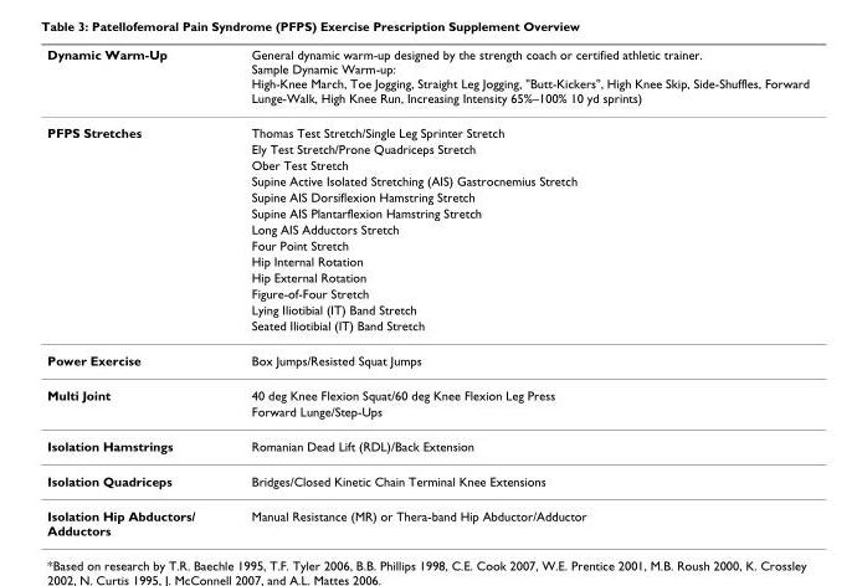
<table><thead><tr><td>Dynamic Warm-Up</td><td>General dynamic warm-up designed by the strength coach or certified athletic trainer. Sample Dynamic Warm-up: High-Knee March, Toe Jogging, Straight Leg Jogging, &quot;Butt-Kickers&quot;, High Knee Skip, Side-Shuffles, Forward Lunge-Walk, High Knee Run, Increasing Intensity 65%–100% 10 yd sprints)</td></tr></thead><tbody><tr><td rowspan="13">PFPS Stretches</td><td>Thomas Test Stretch/Single Leg Sprinter Stretch</td></tr><tr><td>Ely Test Stretch/Prone Quadriceps Stretch</td></tr><tr><td>Ober Test Stretch</td></tr><tr><td>Supine Active Isolated Stretching (AIS) Gastrocnemius Stretch</td></tr><tr><td>Supine AIS Dorsiflexion Hamstring Stretch</td></tr><tr><td>Supine AIS Plantarflexion Hamstring Stretch</td></tr><tr><td>Long AIS Adductors Stretch</td></tr><tr><td>Four Point Stretch</td></tr><tr><td>Hip Internal Rotation</td></tr><tr><td>Hip External Rotation</td></tr><tr><td>Figure-of-Four Stretch</td></tr><tr><td>Lying Iliotibial (IT) Band Stretch</td></tr><tr><td>Seated Iliotibial (IT) Band Stretch</td></tr><tr><td>Power Exercise</td><td>Box Jumps/Resisted Squat Jumps</td></tr><tr><td rowspan="2">Multi Joint</td><td>40 deg Knee Flexion Squat/60 deg Knee Flexion Leg Press</td></tr><tr><td>Forward Lunge/Step-Ups</td></tr><tr><td>Isolation Hamstrings</td><td>Romanian Dead Lift (RDL)/Back Extension</td></tr><tr><td>Isolation Quadriceps</td><td>Bridges/Closed Kinetic Chain Terminal Knee Extensions</td></tr><tr><td>Isolation Hip Abductors/ Adductors</td><td>Manual Resistance (MR) or Thera-band Hip Abductor/Adductor</td></tr></tbody></table>